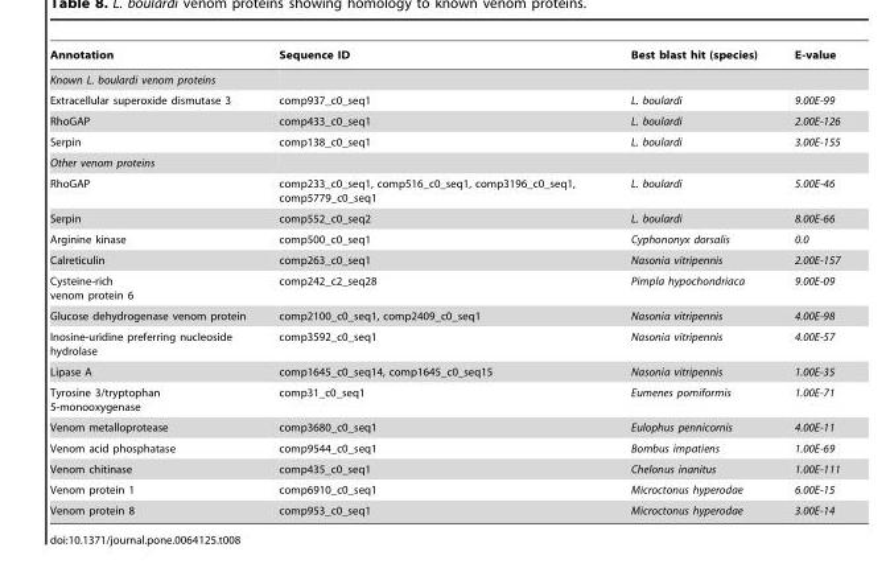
<table><thead><tr><td>Annotation</td><td>Sequence ID</td><td>Best blast hit (species)</td><td>E-value</td></tr></thead><tbody><tr><td colspan="4">Known L. boulardi venom proteins</td></tr><tr><td>Extracellular superoxide dismutase 3</td><td>comp937_c0_seq1</td><td>L. boulardi</td><td>9.00E-99</td></tr><tr><td>RhoGAP</td><td>comp433_c0_seq1</td><td>L. boulardi</td><td>2.00E-126</td></tr><tr><td>Serpin</td><td>comp138_c0_seq1</td><td>L. boulardi</td><td>3.00E-155</td></tr><tr><td colspan="4">Other venom proteins</td></tr><tr><td>RhoGAP</td><td>comp233_c0_seq1, comp516_c0_seq1, comp3196_c0_seq1, comp5779_c0_seq1</td><td>L. boulardi</td><td>5.00E-46</td></tr><tr><td>Serpin</td><td>comp552_c0_seq2</td><td>L. boulardi</td><td>8.00E-66</td></tr><tr><td>Arginine kinase</td><td>comp500_c0_seq1</td><td>Cyphononyx dorsalis</td><td>0.0</td></tr><tr><td>Calreticulin</td><td>comp263_c0_seq1</td><td>Nasonia vitripennis</td><td>2.00E-157</td></tr><tr><td>Cysteine-rich venom protein 6</td><td>comp242_c2_seq28</td><td>Pimpla hypochondriaca</td><td>9.00E-09</td></tr><tr><td>Glucose dehydrogenase venom protein</td><td>comp2100_c0_seq1, comp2409_c0_seq1</td><td>Nasonia vitripennis</td><td>4.00E-98</td></tr><tr><td>Inosine-uridine preferring nucleoside hydrolase</td><td>comp3592_c0_seq1</td><td>Nasonia vitripennis</td><td>4.00E-57</td></tr><tr><td>Lipase A</td><td>comp1645_c0_seq14, comp1645_c0_seq15</td><td>Nasonia vitripennis</td><td>1.00E-35</td></tr><tr><td>Tyrosine 3/tryptophan 5-monooxygenase</td><td>comp31_c0_seq1</td><td>Eumenes pomiformis</td><td>1.00E-71</td></tr><tr><td>Venom metalloprotease</td><td>comp3680_c0_seq1</td><td>Eulophus pennicornis</td><td>4.00E-11</td></tr><tr><td>Venom acid phosphatase</td><td>comp9544_c0_seq1</td><td>Bombus impatiens</td><td>1.00E-69</td></tr><tr><td>Venom chitinase</td><td>comp435_c0_seq1</td><td>Chelonus inanitus</td><td>1.00E-111</td></tr><tr><td>Venom protein 1</td><td>comp6910_c0_seq1</td><td>Microctonus hyperodae</td><td>6.00E-15</td></tr><tr><td>Venom protein 8</td><td>comp953_c0_seq1</td><td>Microctonus hyperodae</td><td>3.00E-14</td></tr></tbody></table>